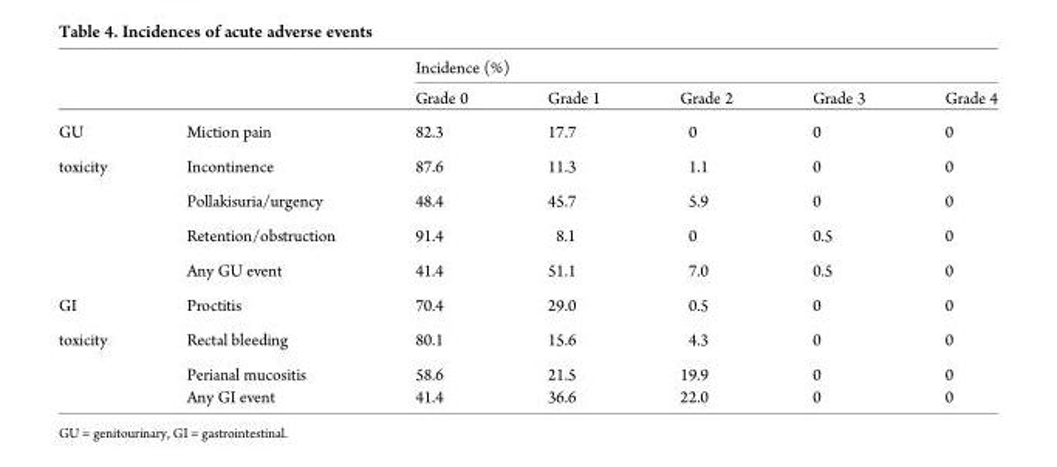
<table><thead><tr><td rowspan="2"></td><td rowspan="2"></td><td colspan="5">Incidence (%)</td></tr><tr><td>Grade 0</td><td>Grade 1</td><td>Grade 2</td><td>Grade 3</td><td>Grade 4</td></tr></thead><tbody><tr><td>GU</td><td>Miction pain</td><td>82.3</td><td>17.7</td><td>0</td><td>0</td><td>0</td></tr><tr><td rowspan="4">toxicity</td><td>Incontinence</td><td>87.6</td><td>11.3</td><td>1.1</td><td>0</td><td>0</td></tr><tr><td>Pollakisuria/urgency</td><td>48.4</td><td>45.7</td><td>5.9</td><td>0</td><td>0</td></tr><tr><td>Retention/obstruction</td><td>91.4</td><td>8.1</td><td>0</td><td>0.5</td><td>0</td></tr><tr><td>Any GU event</td><td>41.4</td><td>51.1</td><td>7.0</td><td>0.5</td><td>0</td></tr><tr><td>GI</td><td>Proctitis</td><td>70.4</td><td>29.0</td><td>0.5</td><td>0</td><td>0</td></tr><tr><td rowspan="3">toxicity</td><td>Rectal bleeding</td><td>80.1</td><td>15.6</td><td>4.3</td><td>0</td><td>0</td></tr><tr><td>Perianal mucositis</td><td>58.6</td><td>21.5</td><td>19.9</td><td>0</td><td>0</td></tr><tr><td>Any GI event</td><td>41.4</td><td>36.6</td><td>22.0</td><td>0</td><td>0</td></tr></tbody></table>